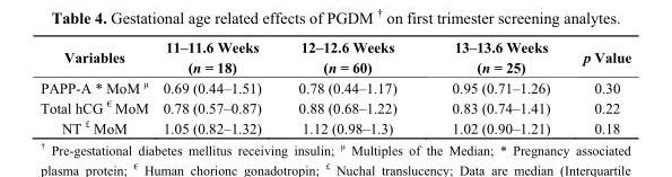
<table><thead><tr><td>Variables</td><td>11–11.6 Weeks (n = 18)</td><td>12–12.6 Weeks (n = 60)</td><td>13–13.6 Weeks (n = 25)</td><td>p Value</td></tr></thead><tbody><tr><td>PAPP-A * MoM <sup>μ</sup></td><td>0.69 (0.44–1.51)</td><td>0.78 (0.44–1.17)</td><td>0.95 (0.71–1.26)</td><td>0.30</td></tr><tr><td>Total hCG <sup>€</sup> MoM</td><td>0.78 (0.57–0.87)</td><td>0.88 (0.68–1.22)</td><td>0.83 (0.74–1.41)</td><td>0.22</td></tr><tr><td>NT <sup>£</sup> MoM</td><td>1.05 (0.82–1.32)</td><td>1.12 (0.98–1.3)</td><td>1.02 (0.90–1.21)</td><td>0.18</td></tr></tbody></table>